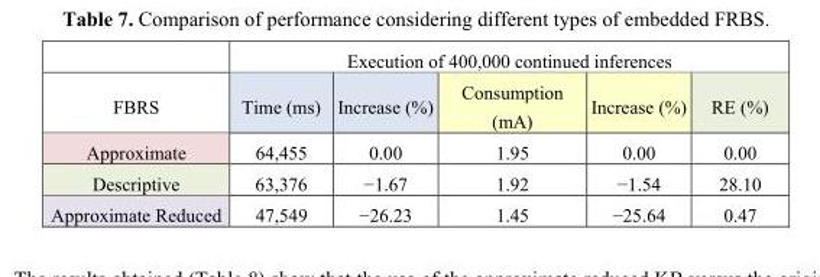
<table><thead><tr><td rowspan="2">FBRS</td><td colspan="5">Execution of 400,000 continued inferences</td></tr><tr><td>Time (ms)</td><td>Increase (%)</td><td>Consumption (mA)</td><td>Increase (%)</td><td>RE (%)</td></tr></thead><tbody><tr><td>Approximate</td><td>64,455</td><td>0.00</td><td>1.95</td><td>0.00</td><td>0.00</td></tr><tr><td>Descriptive</td><td>63,376</td><td>−1.67</td><td>1.92</td><td>−1.54</td><td>28.10</td></tr><tr><td>Approximate Reduced</td><td>47,549</td><td>−26.23</td><td>1.45</td><td>−25.64</td><td>0.47</td></tr></tbody></table>